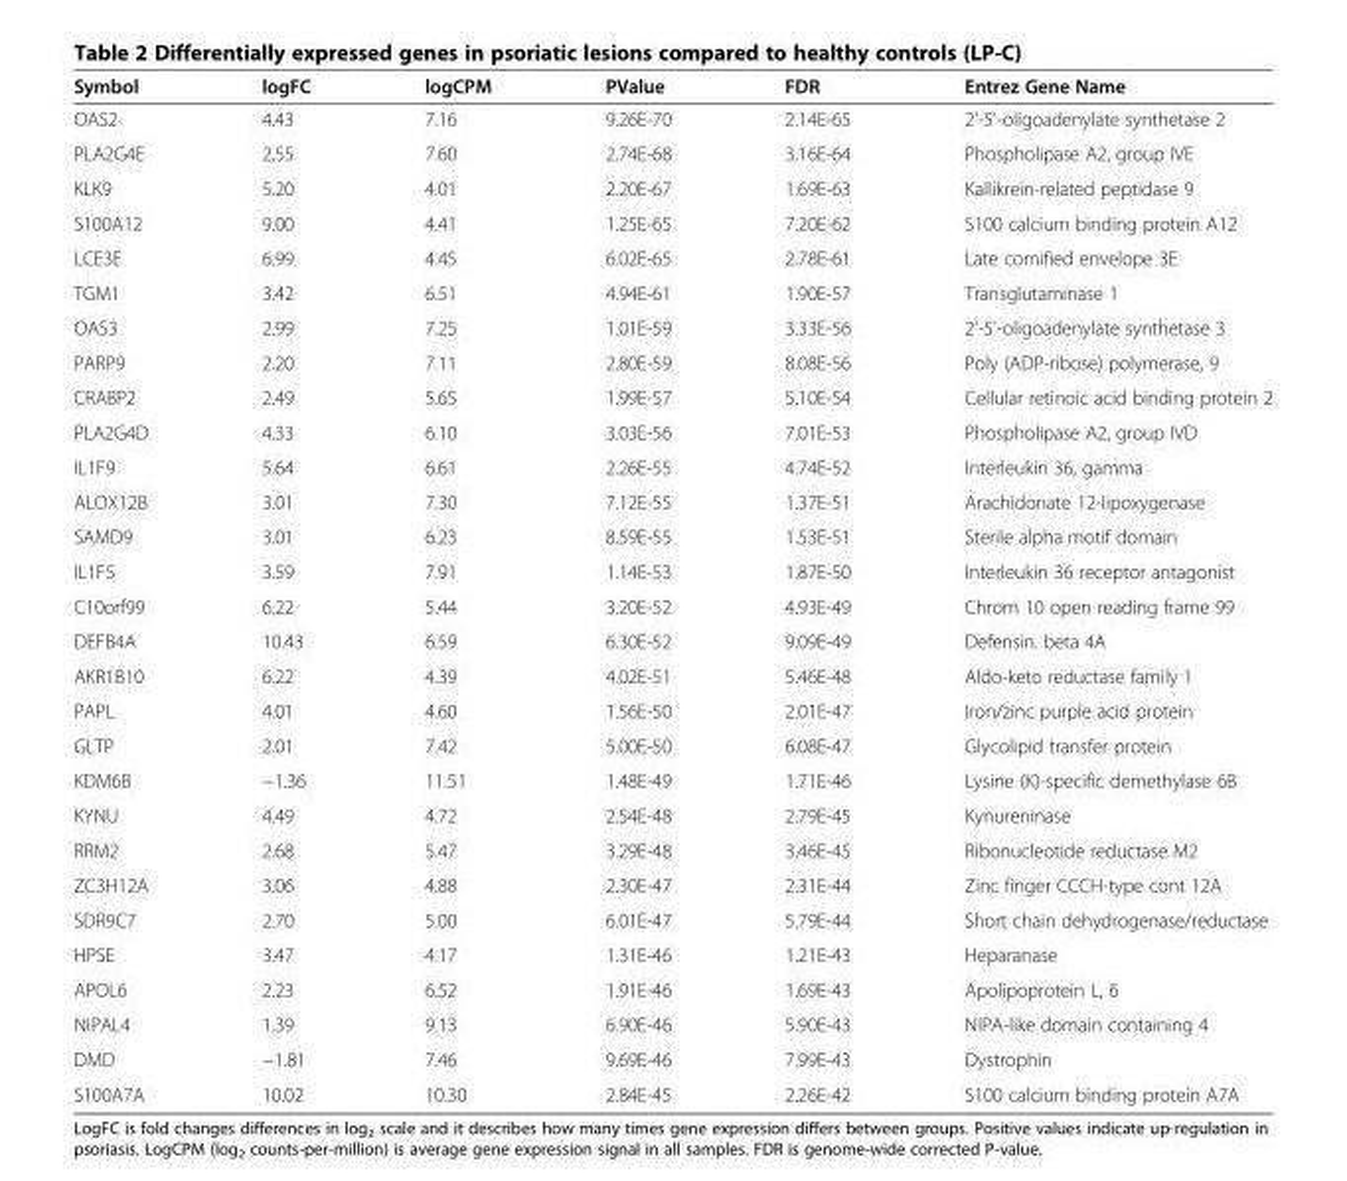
<table><thead><tr><td>Symbol</td><td>logFC</td><td>logCPM</td><td>PValue</td><td>FDR</td><td>Entrez Gene Name</td></tr></thead><tbody><tr><td>OAS2</td><td>4.43</td><td>7.16</td><td>9.26E-70</td><td>2.14E-65</td><td>2&#x27;-5&#x27;-oligoadenylate synthetase 2</td></tr><tr><td>PLA2G4E</td><td>2.55</td><td>7.60</td><td>2.74E-68</td><td>3.16E-64</td><td>Phospholipase A2, group IVE</td></tr><tr><td>KLK9</td><td>5.20</td><td>4.01</td><td>2.20E-67</td><td>1.69E-63</td><td>Kallikrein-related peptidase 9</td></tr><tr><td>S100A12</td><td>9.00</td><td>4.41</td><td>1.25E-65</td><td>7.20E-62</td><td>S100 calcium binding protein A12</td></tr><tr><td>LCE3E</td><td>6.99</td><td>4.45</td><td>6.02E-65</td><td>2.78E-61</td><td>Late cornified envelope 3E</td></tr><tr><td>TGM1</td><td>3.42</td><td>6.51</td><td>4.94E-61</td><td>1.90E-57</td><td>Transglutaminase 1</td></tr><tr><td>OAS3</td><td>2.99</td><td>7.25</td><td>1.01E-59</td><td>3.33E-56</td><td>2&#x27;-5&#x27;-oligoadenylate synthetase 3</td></tr><tr><td>PARP9</td><td>2.20</td><td>7.11</td><td>2.80E-59</td><td>8.08E-56</td><td>Poly (ADP-ribose) polymerase, 9</td></tr><tr><td>CRABP2</td><td>2.49</td><td>5.65</td><td>1.99E-57</td><td>5.10E-54</td><td>Cellular retinoic acid binding protein 2</td></tr><tr><td>PLA2G4D</td><td>4.33</td><td>6.10</td><td>3.03E-56</td><td>7.01E-53</td><td>Phospholipase A2, group IVD</td></tr><tr><td>IL1F9</td><td>5.64</td><td>6.61</td><td>2.26E-55</td><td>4.74E-52</td><td>Interleukin 36, gamma</td></tr><tr><td>ALOX12B</td><td>3.01</td><td>7.30</td><td>7.12E-55</td><td>1.37E-51</td><td>Arachidonate 12-lipoxygenase</td></tr><tr><td>SAMD9</td><td>3.01</td><td>6.23</td><td>8.59E-55</td><td>1.53E-51</td><td>Sterile alpha motif domain</td></tr><tr><td>IL1F5</td><td>3.59</td><td>7.91</td><td>1.14E-53</td><td>1.87E-50</td><td>Interleukin 36 receptor antagonist</td></tr><tr><td>C10orf99</td><td>6.22</td><td>5.44</td><td>3.20E-52</td><td>4.93E-49</td><td>Chrom 10 open reading frame 99</td></tr><tr><td>DEFB4A</td><td>10.43</td><td>6.59</td><td>6.30E-52</td><td>9.09E-49</td><td>Defensin. beta 4A</td></tr><tr><td>AKR1B10</td><td>6.22</td><td>4.39</td><td>4.02E-51</td><td>5.46E-48</td><td>Aldo-keto reductase family 1</td></tr><tr><td>PAPL</td><td>4.01</td><td>4.60</td><td>1.56E-50</td><td>2.01E-47</td><td>Iron/zinc purple acid protein</td></tr><tr><td>GLTP</td><td>2.01</td><td>7.42</td><td>5.00E-50</td><td>6.08E-47</td><td>Glycolipid transfer protein</td></tr><tr><td>KDM6B</td><td>−1.36</td><td>11.51</td><td>1.48E-49</td><td>1.71E-46</td><td>Lysine (K)-specific demethylase 6B</td></tr><tr><td>KYNU</td><td>4.49</td><td>4.72</td><td>2.54E-48</td><td>2.79E-45</td><td>Kynureninase</td></tr><tr><td>RRM2</td><td>2.68</td><td>5.47</td><td>3.29E-48</td><td>3.46E-45</td><td>Ribonucleotide reductase M2</td></tr><tr><td>ZC3H12A</td><td>3.06</td><td>4.88</td><td>2.30E-47</td><td>2.31E-44</td><td>Zinc finger CCCH-type cont 12A</td></tr><tr><td>SDR9C7</td><td>2.70</td><td>5.00</td><td>6.01E-47</td><td>5.79E-44</td><td>Short chain dehydrogenase/reductase</td></tr><tr><td>HPSE</td><td>3.47</td><td>4.17</td><td>1.31E-46</td><td>1.21E-43</td><td>Heparanase</td></tr><tr><td>APOL6</td><td>2.23</td><td>6.52</td><td>1.91E-46</td><td>1.69E-43</td><td>Apolipoprotein L, 6</td></tr><tr><td>NIPAL4</td><td>1.39</td><td>9.13</td><td>6.90E-46</td><td>5.90E-43</td><td>NIPA-like domain containing 4</td></tr><tr><td>DMD</td><td>−1.81</td><td>7.46</td><td>9.69E-46</td><td>7.99E-43</td><td>Dystrophin</td></tr><tr><td>S100A7A</td><td>10.02</td><td>10.30</td><td>2.84E-45</td><td>2.26E-42</td><td>S100 calcium binding protein A7A</td></tr></tbody></table>